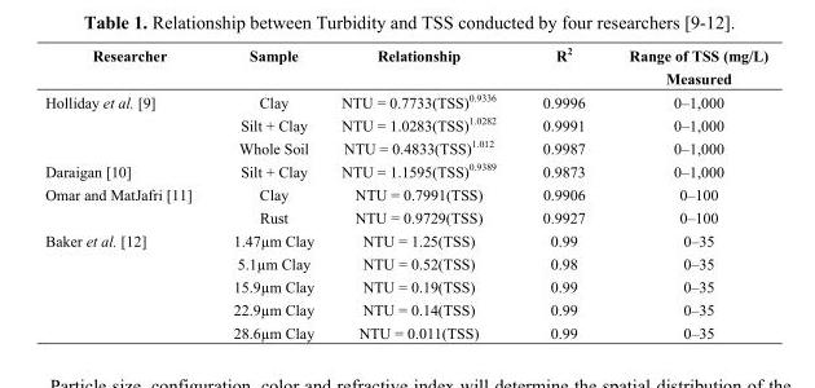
<table><thead><tr><td>Researcher</td><td>Sample</td><td>Relationship</td><td>R<sup>2</sup></td><td>Range of TSS (mg/L) Measured</td></tr></thead><tbody><tr><td rowspan="3">Holliday et al. [9]</td><td>Clay</td><td>NTU = 0.7733(TSS)<sup>0.9336</sup></td><td>0.9996</td><td>0–1,000</td></tr><tr><td>Silt + Clay</td><td>NTU = 1.0283(TSS)<sup>1.0282</sup></td><td>0.9991</td><td>0–1,000</td></tr><tr><td>Whole Soil</td><td>NTU = 0.4833(TSS)<sup>1.012</sup></td><td>0.9987</td><td>0–1,000</td></tr><tr><td>Daraigan [10]</td><td>Silt + Clay</td><td>NTU = 1.1595(TSS)<sup>0.9389</sup></td><td>0.9873</td><td>0–1,000</td></tr><tr><td rowspan="2">Omar and MatJafri [11]</td><td>Clay</td><td>NTU = 0.7991(TSS)</td><td>0.9906</td><td>0–100</td></tr><tr><td>Rust</td><td>NTU = 0.9729(TSS)</td><td>0.9927</td><td>0–100</td></tr><tr><td rowspan="5">Baker et al. [12]</td><td>1.47µm Clay</td><td>NTU = 1.25(TSS)</td><td>0.99</td><td>0–35</td></tr><tr><td>5.1µm Clay</td><td>NTU = 0.52(TSS)</td><td>0.98</td><td>0–35</td></tr><tr><td>15.9µm Clay</td><td>NTU = 0.19(TSS)</td><td>0.99</td><td>0–35</td></tr><tr><td>22.9µm Clay</td><td>NTU = 0.14(TSS)</td><td>0.99</td><td>0–35</td></tr><tr><td>28.6µm Clay</td><td>NTU = 0.011(TSS)</td><td>0.99</td><td>0–35</td></tr></tbody></table>